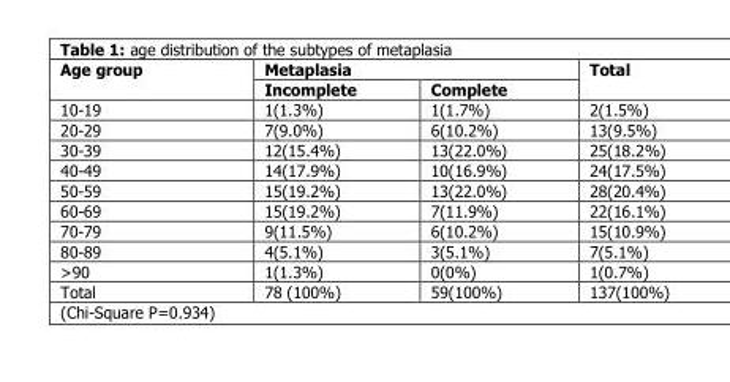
<table><thead><tr><td rowspan="2">Age group</td><td colspan="2">Metaplasia</td><td rowspan="2">Total</td></tr><tr><td>Incomplete</td><td>Complete</td></tr></thead><tbody><tr><td>10-19</td><td>1(1.3%)</td><td>1(1.7%)</td><td>2(1.5%)</td></tr><tr><td>20-29</td><td>7(9.0%)</td><td>6(10.2%)</td><td>13(9.5%)</td></tr><tr><td>30-39</td><td>12(15.4%)</td><td>13(22.0%)</td><td>25(18.2%)</td></tr><tr><td>40-49</td><td>14(17.9%)</td><td>10(16.9%)</td><td>24(17.5%)</td></tr><tr><td>50-59</td><td>15(19.2%)</td><td>13(22.0%)</td><td>28(20.4%)</td></tr><tr><td>60-69</td><td>15(19.2%)</td><td>7(11.9%)</td><td>22(16.1%)</td></tr><tr><td>70-79</td><td>9(11.5%)</td><td>6(10.2%)</td><td>15(10.9%)</td></tr><tr><td>80-89</td><td>4(5.1%)</td><td>3(5.1%)</td><td>7(5.1%)</td></tr><tr><td>&gt;90</td><td>1(1.3%)</td><td>0(0%)</td><td>1(0.7%)</td></tr><tr><td>Total</td><td>78 (100%)</td><td>59(100%)</td><td>137(100%)</td></tr><tr><td colspan="4">(Chi-Square P=0.934)</td></tr></tbody></table>